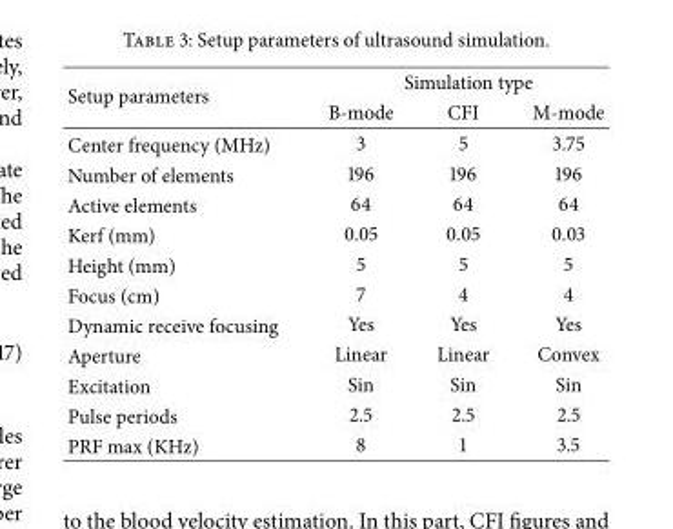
<table><thead><tr><td rowspan="2">Setup parameters</td><td colspan="3">Simulation type</td></tr><tr><td>B-mode</td><td>CFI</td><td>M-mode</td></tr></thead><tbody><tr><td>Center frequency (MHz)</td><td>3</td><td>5</td><td>3.75</td></tr><tr><td>Number of elements</td><td>196</td><td>196</td><td>196</td></tr><tr><td>Active elements</td><td>64</td><td>64</td><td>64</td></tr><tr><td>Kerf (mm)</td><td>0.05</td><td>0.05</td><td>0.03</td></tr><tr><td>Height (mm)</td><td>5</td><td>5</td><td>5</td></tr><tr><td>Focus (cm)</td><td>7</td><td>4</td><td>4</td></tr><tr><td>Dynamic receive focusing</td><td>Yes</td><td>Yes</td><td>Yes</td></tr><tr><td>Aperture</td><td>Linear</td><td>Linear</td><td>Convex</td></tr><tr><td>Excitation</td><td>Sin</td><td>Sin</td><td>Sin</td></tr><tr><td>Pulse periods</td><td>2.5</td><td>2.5</td><td>2.5</td></tr><tr><td>PRF max (KHz)</td><td>8</td><td>1</td><td>3.5</td></tr></tbody></table>